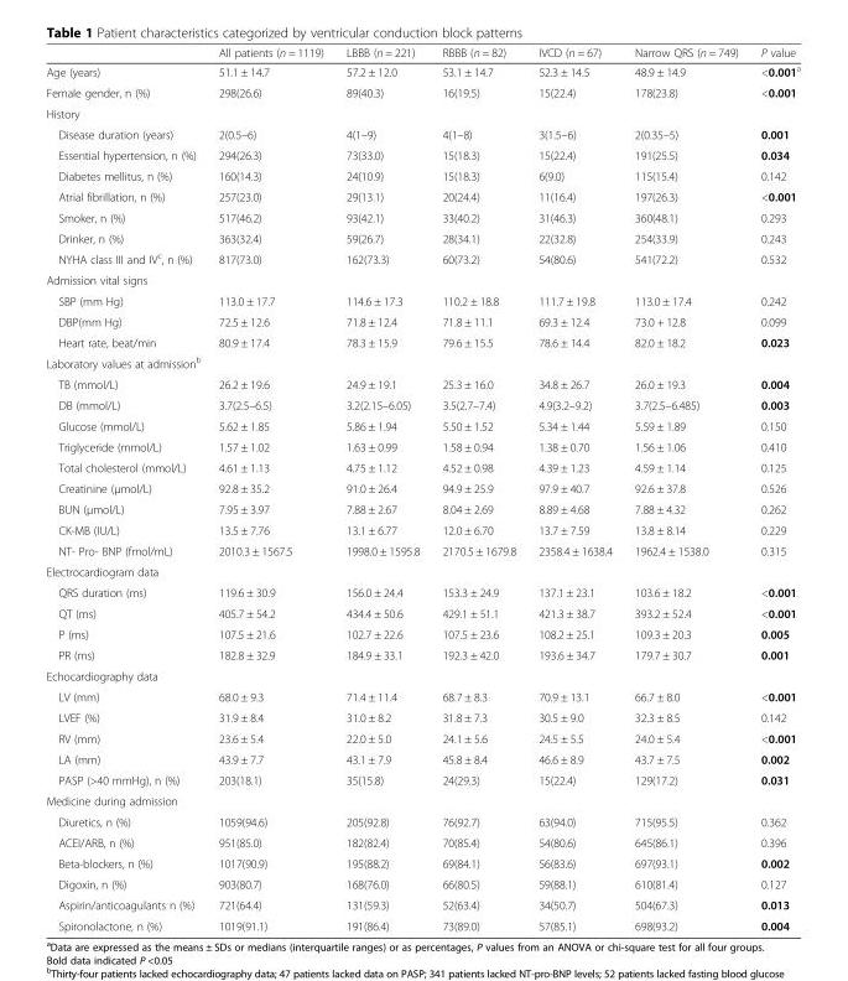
<table><thead><tr><td></td><td>All patients (n = 1119)</td><td>LBBB (n = 221)</td><td>RBBB (n = 82)</td><td>IVCD (n = 67)</td><td>Narrow QRS (n = 749)</td><td>P value</td></tr></thead><tbody><tr><td>Age (years)</td><td>51.1 ± 14.7</td><td>57.2 ± 12.0</td><td>53.1 ± 14.7</td><td>52.3 ± 14.5</td><td>48.9 ± 14.9</td><td>&lt;0.001<sup>a</sup></td></tr><tr><td>Female gender, n (%)</td><td>298(26.6)</td><td>89(40.3)</td><td>16(19.5)</td><td>15(22.4)</td><td>178(23.8)</td><td>&lt;0.001</td></tr><tr><td colspan="7">History</td></tr><tr><td>Disease duration (years)</td><td>2(0.5–6)</td><td>4(1–9)</td><td>4(1–8)</td><td>3(1.5–6)</td><td>2(0.35–5)</td><td>0.001</td></tr><tr><td>Essential hypertension, n (%)</td><td>294(26.3)</td><td>73(33.0)</td><td>15(18.3)</td><td>15(22.4)</td><td>191(25.5)</td><td>0.034</td></tr><tr><td>Diabetes mellitus, n (%)</td><td>160(14.3)</td><td>24(10.9)</td><td>15(18.3)</td><td>6(9.0)</td><td>115(15.4)</td><td>0.142</td></tr><tr><td>Atrial fibrillation, n (%)</td><td>257(23.0)</td><td>29(13.1)</td><td>20(24.4)</td><td>11(16.4)</td><td>197(26.3)</td><td>&lt;0.001</td></tr><tr><td>Smoker, n (%)</td><td>517(46.2)</td><td>93(42.1)</td><td>33(40.2)</td><td>31(46.3)</td><td>360(48.1)</td><td>0.293</td></tr><tr><td>Drinker, n (%)</td><td>363(32.4)</td><td>59(26.7)</td><td>28(34.1)</td><td>22(32.8)</td><td>254(33.9)</td><td>0.243</td></tr><tr><td>NYHA class III and IV<sup>c</sup>, n (%)</td><td>817(73.0)</td><td>162(73.3)</td><td>60(73.2)</td><td>54(80.6)</td><td>541(72.2)</td><td>0.532</td></tr><tr><td colspan="7">Admission vital signs</td></tr><tr><td>SBP (mm Hg)</td><td>113.0 ± 17.7</td><td>114.6 ± 17.3</td><td>110.2 ± 18.8</td><td>111.7 ± 19.8</td><td>113.0 ± 17.4</td><td>0.242</td></tr><tr><td>DBP(mm Hg)</td><td>72.5 ± 12.6</td><td>71.8 ± 12.4</td><td>71.8 ± 11.1</td><td>69.3 ± 12.4</td><td>73.0 + 12.8</td><td>0.099</td></tr><tr><td>Heart rate, beat/min</td><td>80.9 ± 17.4</td><td>78.3 ± 15.9</td><td>79.6 ± 15.5</td><td>78.6 ± 14.4</td><td>82.0 ± 18.2</td><td>0.023</td></tr><tr><td colspan="7">Laboratory values at admission<sup>b</sup></td></tr><tr><td>TB (mmol/L)</td><td>26.2 ± 19.6</td><td>24.9 ± 19.1</td><td>25.3 ± 16.0</td><td>34.8 ± 26.7</td><td>26.0 ± 19.3</td><td>0.004</td></tr><tr><td>DB (mmol/L)</td><td>3.7(2.5–6.5)</td><td>3.2(2.15–6.05)</td><td>3.5(2.7–7.4)</td><td>4.9(3.2–9.2)</td><td>3.7(2.5–6.485)</td><td>0.003</td></tr><tr><td>Glucose (mmol/L)</td><td>5.62 ± 1.85</td><td>5.86 ± 1.94</td><td>5.50 ± 1.52</td><td>5.34 ± 1.44</td><td>5.59 ± 1.89</td><td>0.150</td></tr><tr><td>Triglyceride (mmol/L)</td><td>1.57 ± 1.02</td><td>1.63 ± 0.99</td><td>1.58 ± 0.94</td><td>1.38 ± 0.70</td><td>1.56 ± 1.06</td><td>0.410</td></tr><tr><td>Total cholesterol (mmol/L)</td><td>4.61 ± 1.13</td><td>4.75 ± 1.12</td><td>4.52 ± 0.98</td><td>4.39 ± 1.23</td><td>4.59 ± 1.14</td><td>0.125</td></tr><tr><td>Creatinine (μmol/L)</td><td>92.8 ± 35.2</td><td>91.0 ± 26.4</td><td>94.9 ± 25.9</td><td>97.9 ± 40.7</td><td>92.6 ± 37.8</td><td>0.526</td></tr><tr><td>BUN (μmol/L)</td><td>7.95 ± 3.97</td><td>7.88 ± 2.67</td><td>8.04 ± 2.69</td><td>8.89 ± 4.68</td><td>7.88 ± 4.32</td><td>0.262</td></tr><tr><td>CK-MB (IU/L)</td><td>13.5 ± 7.76</td><td>13.1 ± 6.77</td><td>12.0 ± 6.70</td><td>13.7 ± 7.59</td><td>13.8 ± 8.14</td><td>0.229</td></tr><tr><td>NT- Pro- BNP (fmol/mL)</td><td>2010.3 ± 1567.5</td><td>1998.0 ± 1595.8</td><td>2170.5 ± 1679.8</td><td>2358.4 ± 1638.4</td><td>1962.4 ± 1538.0</td><td>0.315</td></tr><tr><td colspan="7">Electrocardiogram data</td></tr><tr><td>QRS duration (ms)</td><td>119.6 ± 30.9</td><td>156.0 ± 24.4</td><td>153.3 ± 24.9</td><td>137.1 ± 23.1</td><td>103.6 ± 18.2</td><td>&lt;0.001</td></tr><tr><td>QT (ms)</td><td>405.7 ± 54.2</td><td>434.4 ± 50.6</td><td>429.1 ± 51.1</td><td>421.3 ± 38.7</td><td>393.2 ± 52.4</td><td>&lt;0.001</td></tr><tr><td>P (ms)</td><td>107.5 ± 21.6</td><td>102.7 ± 22.6</td><td>107.5 ± 23.6</td><td>108.2 ± 25.1</td><td>109.3 ± 20.3</td><td>0.005</td></tr><tr><td>PR (ms)</td><td>182.8 ± 32.9</td><td>184.9 ± 33.1</td><td>192.3 ± 42.0</td><td>193.6 ± 34.7</td><td>179.7 ± 30.7</td><td>0.001</td></tr><tr><td colspan="7">Echocardiography data</td></tr><tr><td>LV (mm)</td><td>68.0 ± 9.3</td><td>71.4 ± 11.4</td><td>68.7 ± 8.3</td><td>70.9 ± 13.1</td><td>66.7 ± 8.0</td><td>&lt;0.001</td></tr><tr><td>LVEF (%)</td><td>31.9 ± 8.4</td><td>31.0 ± 8.2</td><td>31.8 ± 7.3</td><td>30.5 ± 9.0</td><td>32.3 ± 8.5</td><td>0.142</td></tr><tr><td>RV (mm)</td><td>23.6 ± 5.4</td><td>22.0 ± 5.0</td><td>24.1 ± 5.6</td><td>24.5 ± 5.5</td><td>24.0 ± 5.4</td><td>&lt;0.001</td></tr><tr><td>LA (mm)</td><td>43.9 ± 7.7</td><td>43.1 ± 7.9</td><td>45.8 ± 8.4</td><td>46.6 ± 8.9</td><td>43.7 ± 7.5</td><td>0.002</td></tr><tr><td>PASP (&gt;40 mmHg), n (%)</td><td>203(18.1)</td><td>35(15.8)</td><td>24(29.3)</td><td>15(22.4)</td><td>129(17.2)</td><td>0.031</td></tr><tr><td colspan="7">Medicine during admission</td></tr><tr><td>Diuretics, n (%)</td><td>1059(94.6)</td><td>205(92.8)</td><td>76(92.7)</td><td>63(94.0)</td><td>715(95.5)</td><td>0.362</td></tr><tr><td>ACEI/ARB, n (%)</td><td>951(85.0)</td><td>182(82.4)</td><td>70(85.4)</td><td>54(80.6)</td><td>645(86.1)</td><td>0.396</td></tr><tr><td>Beta-blockers, n (%)</td><td>1017(90.9)</td><td>195(88.2)</td><td>69(84.1)</td><td>56(83.6)</td><td>697(93.1)</td><td>0.002</td></tr><tr><td>Digoxin, n (%)</td><td>903(80.7)</td><td>168(76.0)</td><td>66(80.5)</td><td>59(88.1)</td><td>610(81.4)</td><td>0.127</td></tr><tr><td>Aspirin/anticoagulants n (%)</td><td>721(64.4)</td><td>131(59.3)</td><td>52(63.4)</td><td>34(50.7)</td><td>504(67.3)</td><td>0.013</td></tr><tr><td>Spironolactone, n (%)</td><td>1019(91.1)</td><td>191(86.4)</td><td>73(89.0)</td><td>57(85.1)</td><td>698(93.2)</td><td>0.004</td></tr></tbody></table>